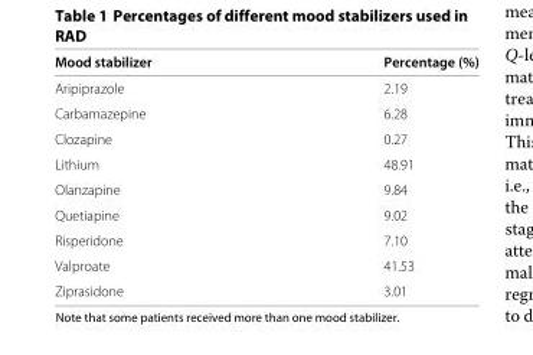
<table><thead><tr><td>Mood stabilizer</td><td>Percentage (%)</td></tr></thead><tbody><tr><td>Aripiprazole</td><td>2.19</td></tr><tr><td>Carbamazepine</td><td>6.28</td></tr><tr><td>Clozapine</td><td>0.27</td></tr><tr><td>Lithium</td><td>48.91</td></tr><tr><td>Olanzapine</td><td>9.84</td></tr><tr><td>Quetiapine</td><td>9.02</td></tr><tr><td>Risperidone</td><td>7.10</td></tr><tr><td>Valproate</td><td>41.53</td></tr><tr><td>Ziprasidone</td><td>3.01</td></tr></tbody></table>